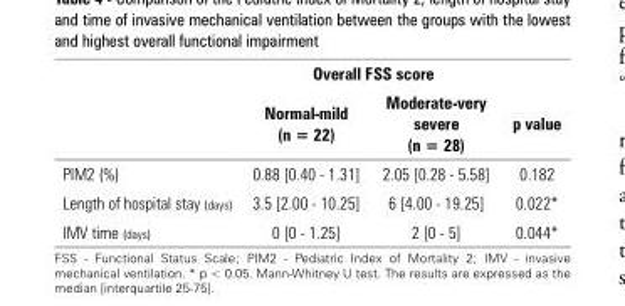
<table><thead><tr><td rowspan="2"></td><td colspan="2">Overall FSS score</td><td rowspan="2">p value</td></tr><tr><td>Normal-mild (n = 22)</td><td>Moderate-very severe (n = 28)</td></tr></thead><tbody><tr><td>PIM2 (%)</td><td>0.88 [0.40 - 1.31]</td><td>2.05 [0.28 - 5.58]</td><td>0.182</td></tr><tr><td>Length of hospital stay (days)</td><td>3.5 [2.00 - 10.25]</td><td>6 [4.00 - 19.25]</td><td>0.022*</td></tr><tr><td>IMV time (days)</td><td>0 [0 - 1.25]</td><td>2 [0 - 5]</td><td>0.044*</td></tr></tbody></table>